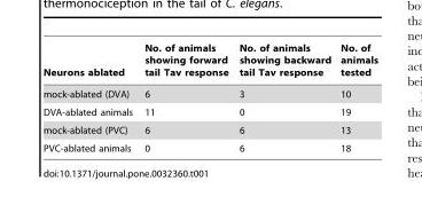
<table><thead><tr><td>Neurons ablated</td><td>No. of animals showing forward tail Tav response</td><td>No. of animals showing backward tail Tav response</td><td>No. of animals tested</td></tr></thead><tbody><tr><td>mock-ablated (DVA)</td><td>6</td><td>3</td><td>10</td></tr><tr><td>DVA-ablated animals</td><td>11</td><td>0</td><td>19</td></tr><tr><td>mock-ablated (PVC)</td><td>6</td><td>6</td><td>13</td></tr><tr><td>PVC-ablated animals</td><td>0</td><td>6</td><td>18</td></tr></tbody></table>